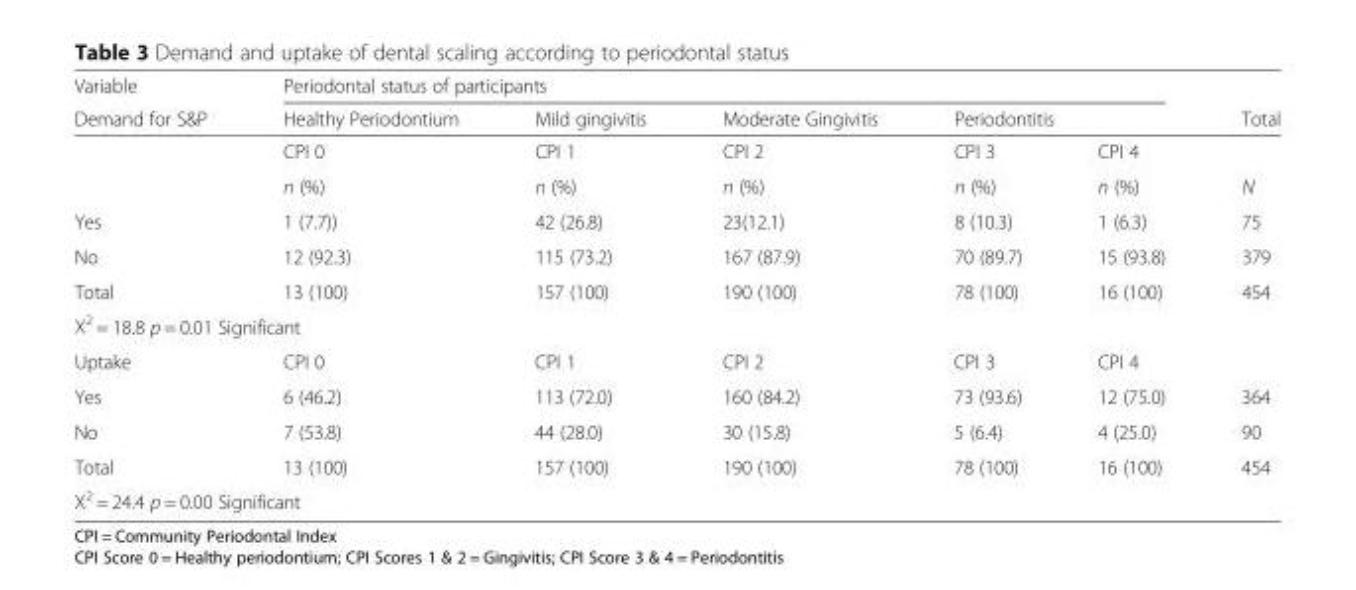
<table><thead><tr><td rowspan="3">Variable Demand for S&amp;P</td><td colspan="5">Periodontal status of participants</td><td rowspan="3">Total</td></tr><tr><td rowspan="2">Healthy Periodontium CPI 0</td><td rowspan="2">Mild gingivitis CPI 1</td><td rowspan="2">Moderate Gingivitis CPI 2</td><td colspan="2">Periodontitis</td></tr><tr><td>CPI 3</td><td>CPI 4</td></tr></thead><tbody><tr><td></td><td>n (%)</td><td>n (%)</td><td>n (%)</td><td>n (%)</td><td>n (%)</td><td>N</td></tr><tr><td>Yes</td><td>1 (7.7))</td><td>42 (26.8)</td><td>23(12.1)</td><td>8 (10.3)</td><td>1 (6.3)</td><td>75</td></tr><tr><td>No</td><td>12 (92.3)</td><td>115 (73.2)</td><td>167 (87.9)</td><td>70 (89.7)</td><td>15 (93.8)</td><td>379</td></tr><tr><td>Total</td><td>13 (100)</td><td>157 (100)</td><td>190 (100)</td><td>78 (100)</td><td>16 (100)</td><td>454</td></tr><tr><td colspan="7">X<sup>2</sup> = 18.8 p = 0.01 Significant</td></tr><tr><td>Uptake</td><td>CPI 0</td><td>CPI 1</td><td>CPI 2</td><td>CPI 3</td><td>CPI 4</td><td></td></tr><tr><td>Yes</td><td>6 (46.2)</td><td>113 (72.0)</td><td>160 (84.2)</td><td>73 (93.6)</td><td>12 (75.0)</td><td>364</td></tr><tr><td>No</td><td>7 (53.8)</td><td>44 (28.0)</td><td>30 (15.8)</td><td>5 (6.4)</td><td>4 (25.0)</td><td>90</td></tr><tr><td>Total</td><td>13 (100)</td><td>157 (100)</td><td>190 (100)</td><td>78 (100)</td><td>16 (100)</td><td>454</td></tr><tr><td colspan="7">X<sup>2</sup> = 24.4 p = 0.00 Significant</td></tr></tbody></table>